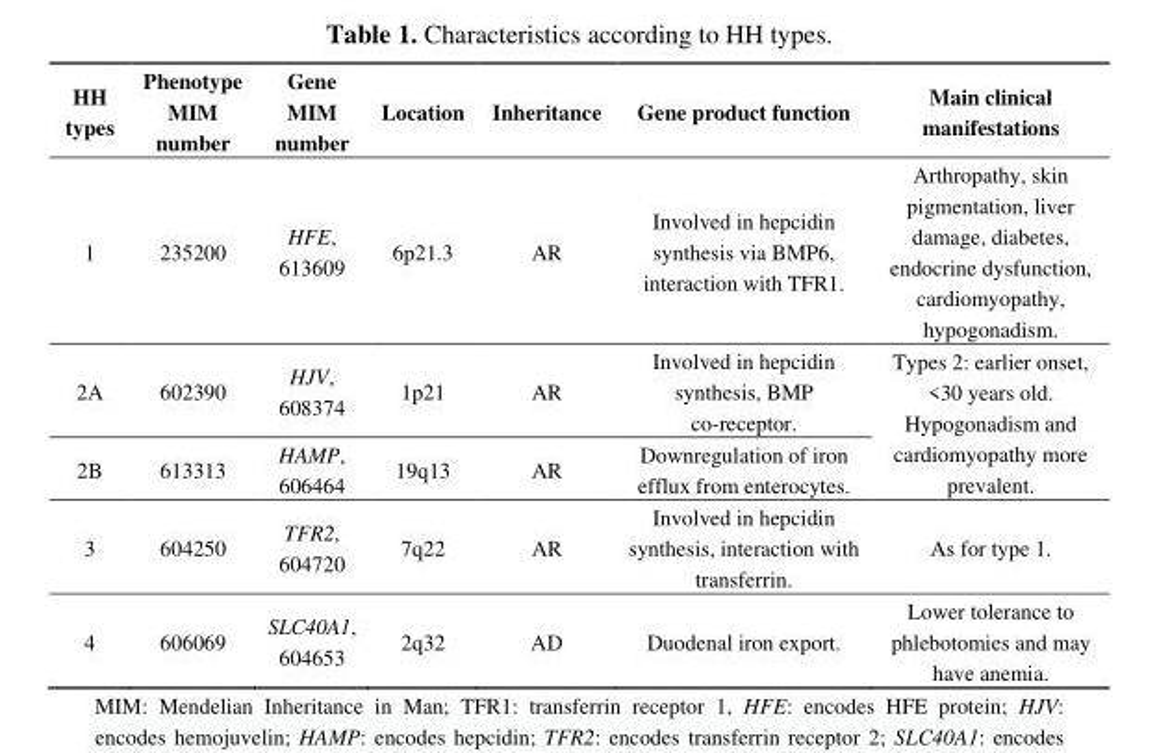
<table><thead><tr><td>HH types</td><td>Phenotype MIM number</td><td>Gene MIM number</td><td>Location</td><td>Inheritance</td><td>Gene product function</td><td>Main clinical manifestations</td></tr></thead><tbody><tr><td>1</td><td>235200</td><td>HFE, 613609</td><td>6p21.3</td><td>AR</td><td>Involved in hepcidin synthesis via BMP6, interaction with TFR1.</td><td>Arthropathy, skin pigmentation, liver damage, diabetes, endocrine dysfunction, cardiomyopathy, hypogonadism.</td></tr><tr><td>2A</td><td>602390</td><td>HJV, 608374</td><td>1p21</td><td>AR</td><td>Involved in hepcidin synthesis, BMP co-receptor.</td><td rowspan="2">Types 2: earlier onset, &lt;30 years old. Hypogonadism and cardiomyopathy more prevalent.</td></tr><tr><td>2B</td><td>613313</td><td>HAMP, 606464</td><td>19q13</td><td>AR</td><td>Downregulation of iron efflux from enterocytes.</td></tr><tr><td>3</td><td>604250</td><td>TFR2, 604720</td><td>7q22</td><td>AR</td><td>Involved in hepcidin synthesis, interaction with transferrin.</td><td>As for type 1.</td></tr><tr><td>4</td><td>606069</td><td>SLC40A1, 604653</td><td>2q32</td><td>AD</td><td>Duodenal iron export.</td><td>Lower tolerance to phlebotomies and may have anemia.</td></tr></tbody></table>